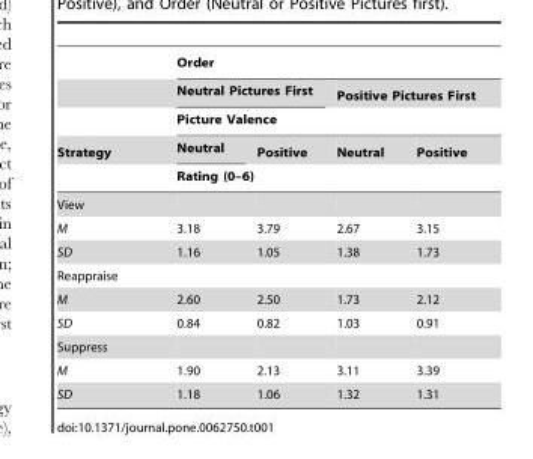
<table><thead><tr><td rowspan="5">Strategy</td><td colspan="4">Order</td></tr><tr><td colspan="2">Neutral Pictures First</td><td colspan="2">Positive Pictures First</td></tr><tr><td colspan="4">Picture Valence</td></tr><tr><td>Neutral</td><td>Positive</td><td>Neutral</td><td>Positive</td></tr><tr><td colspan="4">Rating (0–6)</td></tr></thead><tbody><tr><td colspan="5">View</td></tr><tr><td>M</td><td>3.18</td><td>3.79</td><td>2.67</td><td>3.15</td></tr><tr><td>SD</td><td>1.16</td><td>1.05</td><td>1.38</td><td>1.73</td></tr><tr><td colspan="5">Reappraise</td></tr><tr><td>M</td><td>2.60</td><td>2.50</td><td>1.73</td><td>2.12</td></tr><tr><td>SD</td><td>0.84</td><td>0.82</td><td>1.03</td><td>0.91</td></tr><tr><td colspan="5">Suppress</td></tr><tr><td>M</td><td>1.90</td><td>2.13</td><td>3.11</td><td>3.39</td></tr><tr><td>SD</td><td>1.18</td><td>1.06</td><td>1.32</td><td>1.31</td></tr></tbody></table>